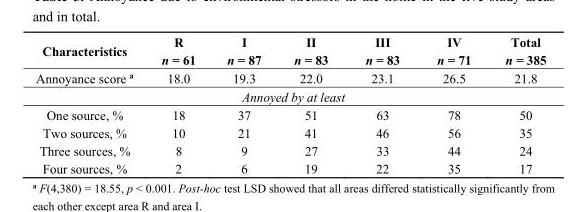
<table><thead><tr><td rowspan="2">Characteristics</td><td rowspan="2">R n = 61</td><td rowspan="2">I n = 87</td><td rowspan="2">II n = 83</td><td rowspan="2">III n = 83</td><td rowspan="2">IV n = 71</td><td rowspan="2">Total n = 385</td></tr><tr></tr></thead><tbody><tr><td>Annoyance score <sup>a</sup></td><td>18.0</td><td>19.3</td><td>22.0</td><td>23.1</td><td>26.5</td><td>21.8</td></tr><tr><td colspan="7">Annoyed by at least</td></tr><tr><td>One source, %</td><td>18</td><td>37</td><td>51</td><td>63</td><td>78</td><td>50</td></tr><tr><td>Two sources, %</td><td>10</td><td>21</td><td>41</td><td>46</td><td>56</td><td>35</td></tr><tr><td>Three sources, %</td><td>8</td><td>9</td><td>27</td><td>33</td><td>44</td><td>24</td></tr><tr><td>Four sources, %</td><td>2</td><td>6</td><td>19</td><td>22</td><td>35</td><td>17</td></tr></tbody></table>